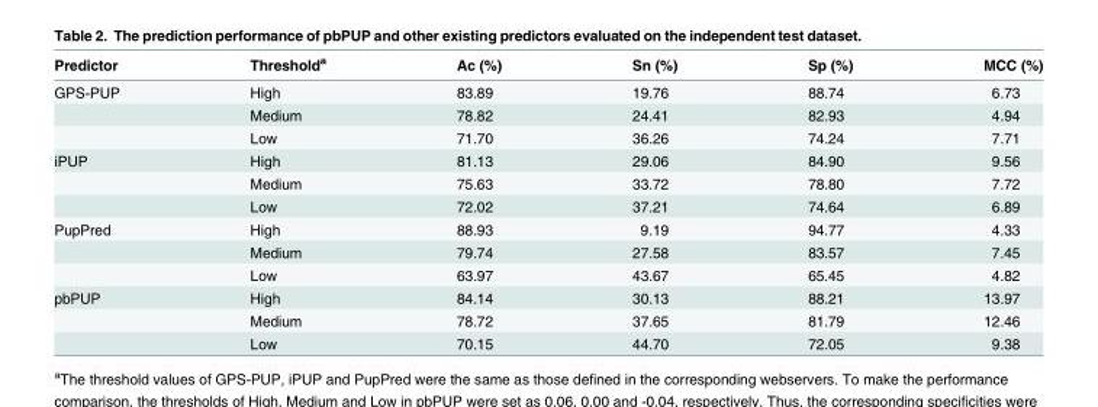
<table><thead><tr><td>Predictor</td><td>Threshold<sup>a</sup></td><td>Ac (%)</td><td>Sn (%)</td><td>Sp (%)</td><td>MCC (%)</td></tr></thead><tbody><tr><td rowspan="3">GPS-PUP</td><td>High</td><td>83.89</td><td>19.76</td><td>88.74</td><td>6.73</td></tr><tr><td>Medium</td><td>78.82</td><td>24.41</td><td>82.93</td><td>4.94</td></tr><tr><td>Low</td><td>71.70</td><td>36.26</td><td>74.24</td><td>7.71</td></tr><tr><td rowspan="3">iPUP</td><td>High</td><td>81.13</td><td>29.06</td><td>84.90</td><td>9.56</td></tr><tr><td>Medium</td><td>75.63</td><td>33.72</td><td>78.80</td><td>7.72</td></tr><tr><td>Low</td><td>72.02</td><td>37.21</td><td>74.64</td><td>6.89</td></tr><tr><td rowspan="3">PupPred</td><td>High</td><td>88.93</td><td>9.19</td><td>94.77</td><td>4.33</td></tr><tr><td>Medium</td><td>79.74</td><td>27.58</td><td>83.57</td><td>7.45</td></tr><tr><td>Low</td><td>63.97</td><td>43.67</td><td>65.45</td><td>4.82</td></tr><tr><td rowspan="3">pbPUP</td><td>High</td><td>84.14</td><td>30.13</td><td>88.21</td><td>13.97</td></tr><tr><td>Medium</td><td>78.72</td><td>37.65</td><td>81.79</td><td>12.46</td></tr><tr><td>Low</td><td>70.15</td><td>44.70</td><td>72.05</td><td>9.38</td></tr></tbody></table>